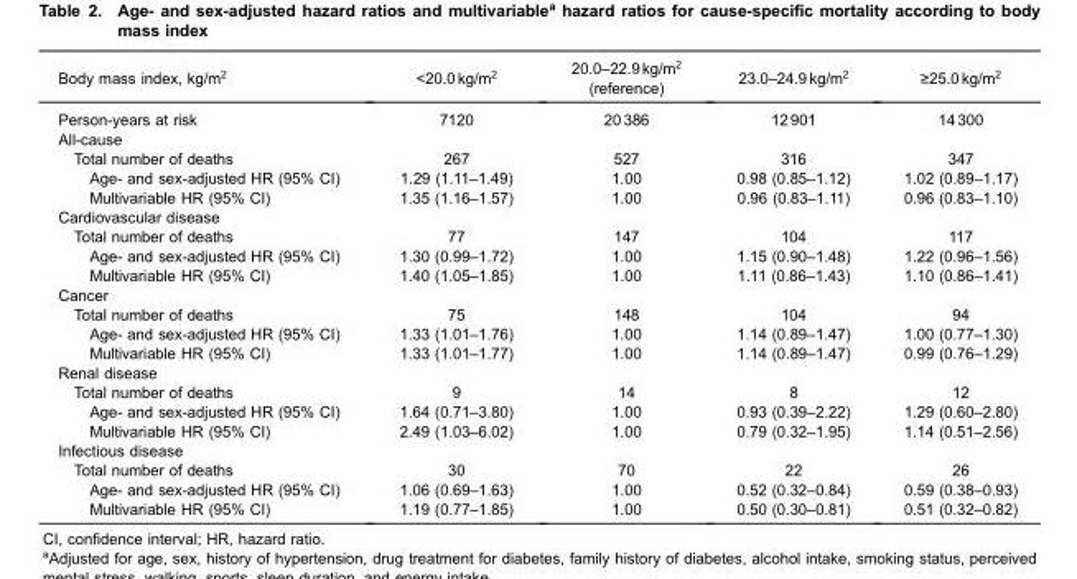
<table><thead><tr><td>Body mass index, kg/m<sup>2</sup></td><td>&lt;20.0 kg/m<sup>2</sup></td><td>20.0–22.9 kg/m<sup>2</sup> (reference)</td><td>23.0–24.9 kg/m<sup>2</sup></td><td>≥25.0 kg/m<sup>2</sup></td></tr></thead><tbody><tr><td>Person-years at risk</td><td>7120</td><td>20 386</td><td>12 901</td><td>14 300</td></tr><tr><td colspan="5">All-cause</td></tr><tr><td>Total number of deaths</td><td>267</td><td>527</td><td>316</td><td>347</td></tr><tr><td>Age- and sex-adjusted HR (95% CI)</td><td>1.29 (1.11–1.49)</td><td>1.00</td><td>0.98 (0.85–1.12)</td><td>1.02 (0.89–1.17)</td></tr><tr><td>Multivariable HR (95% CI)</td><td>1.35 (1.16–1.57)</td><td>1.00</td><td>0.96 (0.83–1.11)</td><td>0.96 (0.83–1.10)</td></tr><tr><td colspan="5">Cardiovascular disease</td></tr><tr><td>Total number of deaths</td><td>77</td><td>147</td><td>104</td><td>117</td></tr><tr><td>Age- and sex-adjusted HR (95% CI)</td><td>1.30 (0.99–1.72)</td><td>1.00</td><td>1.15 (0.90–1.48)</td><td>1.22 (0.96–1.56)</td></tr><tr><td>Multivariable HR (95% CI)</td><td>1.40 (1.05–1.85)</td><td>1.00</td><td>1.11 (0.86–1.43)</td><td>1.10 (0.86–1.41)</td></tr><tr><td colspan="5">Cancer</td></tr><tr><td>Total number of deaths</td><td>75</td><td>148</td><td>104</td><td>94</td></tr><tr><td>Age- and sex-adjusted HR (95% CI)</td><td>1.33 (1.01–1.76)</td><td>1.00</td><td>1.14 (0.89–1.47)</td><td>1.00 (0.77–1.30)</td></tr><tr><td>Multivariable HR (95% CI)</td><td>1.33 (1.01–1.77)</td><td>1.00</td><td>1.14 (0.89–1.47)</td><td>0.99 (0.76–1.29)</td></tr><tr><td colspan="5">Renal disease</td></tr><tr><td>Total number of deaths</td><td>9</td><td>14</td><td>8</td><td>12</td></tr><tr><td>Age- and sex-adjusted HR (95% CI)</td><td>1.64 (0.71–3.80)</td><td>1.00</td><td>0.93 (0.39–2.22)</td><td>1.29 (0.60–2.80)</td></tr><tr><td>Multivariable HR (95% CI)</td><td>2.49 (1.03–6.02)</td><td>1.00</td><td>0.79 (0.32–1.95)</td><td>1.14 (0.51–2.56)</td></tr><tr><td colspan="5">Infectious disease</td></tr><tr><td>Total number of deaths</td><td>30</td><td>70</td><td>22</td><td>26</td></tr><tr><td>Age- and sex-adjusted HR (95% CI)</td><td>1.06 (0.69–1.63)</td><td>1.00</td><td>0.52 (0.32–0.84)</td><td>0.59 (0.38–0.93)</td></tr><tr><td>Multivariable HR (95% CI)</td><td>1.19 (0.77–1.85)</td><td>1.00</td><td>0.50 (0.30–0.81)</td><td>0.51 (0.32–0.82)</td></tr></tbody></table>